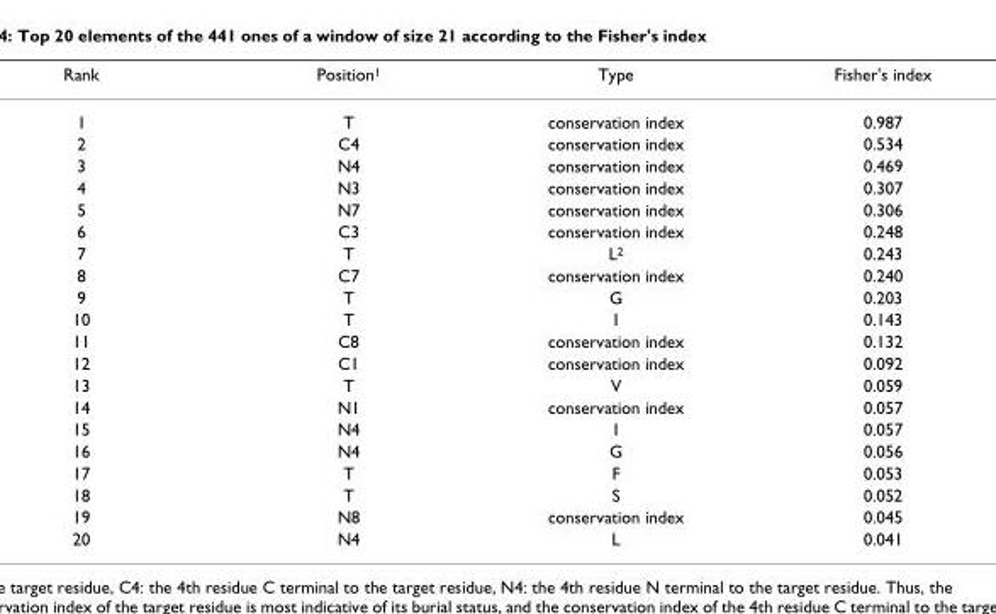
<table><thead><tr><td>Rank</td><td>Position<sup>1</sup></td><td>Type</td><td>Fisher&#x27;s index</td></tr></thead><tbody><tr><td>1</td><td>T</td><td>conservation index</td><td>0.987</td></tr><tr><td>2</td><td>C4</td><td>conservation index</td><td>0.534</td></tr><tr><td>3</td><td>N4</td><td>conservation index</td><td>0.469</td></tr><tr><td>4</td><td>N3</td><td>conservation index</td><td>0.307</td></tr><tr><td>5</td><td>N7</td><td>conservation index</td><td>0.306</td></tr><tr><td>6</td><td>C3</td><td>conservation index</td><td>0.248</td></tr><tr><td>7</td><td>T</td><td>L<sup>2</sup></td><td>0.243</td></tr><tr><td>8</td><td>C7</td><td>conservation index</td><td>0.240</td></tr><tr><td>9</td><td>T</td><td>G</td><td>0.203</td></tr><tr><td>10</td><td>T</td><td>I</td><td>0.143</td></tr><tr><td>11</td><td>C8</td><td>conservation index</td><td>0.132</td></tr><tr><td>12</td><td>C1</td><td>conservation index</td><td>0.092</td></tr><tr><td>13</td><td>T</td><td>V</td><td>0.059</td></tr><tr><td>14</td><td>N1</td><td>conservation index</td><td>0.057</td></tr><tr><td>15</td><td>N4</td><td>I</td><td>0.057</td></tr><tr><td>16</td><td>N4</td><td>G</td><td>0.056</td></tr><tr><td>17</td><td>T</td><td>F</td><td>0.053</td></tr><tr><td>18</td><td>T</td><td>S</td><td>0.052</td></tr><tr><td>19</td><td>N8</td><td>conservation index</td><td>0.045</td></tr><tr><td>20</td><td>N4</td><td>L</td><td>0.041</td></tr></tbody></table>